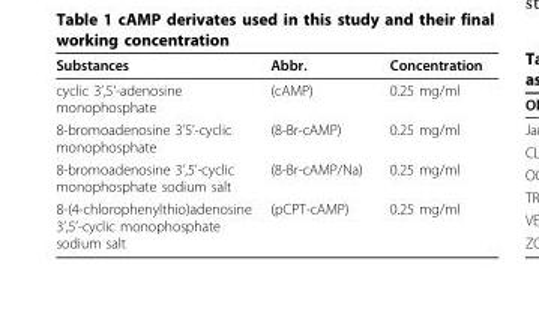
<table><thead><tr><td>Substances</td><td>Abbr.</td><td>Concentration</td></tr></thead><tbody><tr><td>cyclic 3’,5’-adenosine monophosphate</td><td>(cAMP)</td><td>0.25 mg/ml</td></tr><tr><td>8-bromoadenosine 3’5’-cyclic monophosphate</td><td>(8-Br-cAMP)</td><td>0.25 mg/ml</td></tr><tr><td>8-bromoadenosine 3’,5’-cyclic monophosphate sodium salt</td><td>(8-Br-cAMP/Na)</td><td>0.25 mg/ml</td></tr><tr><td>8-(4-chlorophenylthio)adenosine 3’,5’-cyclic monophosphate sodium salt</td><td>(pCPT-cAMP)</td><td>0.25 mg/ml</td></tr></tbody></table>